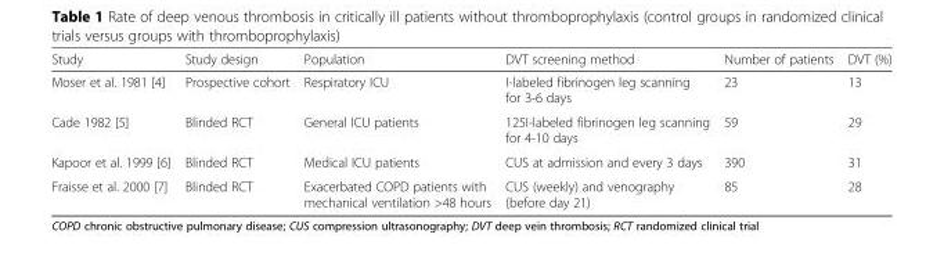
<table><thead><tr><td>Study</td><td>Study design</td><td>Population</td><td>DVT screening method</td><td>Number of patients</td><td>DVT (%)</td></tr></thead><tbody><tr><td>Moser et al. 1981 [4]</td><td>Prospective cohort</td><td>Respiratory ICU</td><td>I-labeled fibrinogen leg scanning for 3-6 days</td><td>23</td><td>13</td></tr><tr><td>Cade 1982 [5]</td><td>Blinded RCT</td><td>General ICU patients</td><td>125I-labeled fibrinogen leg scanning for 4-10 days</td><td>59</td><td>29</td></tr><tr><td>Kapoor et al. 1999 [6]</td><td>Blinded RCT</td><td>Medical ICU patients</td><td>CUS at admission and every 3 days</td><td>390</td><td>31</td></tr><tr><td>Fraisse et al. 2000 [7]</td><td>Blinded RCT</td><td>Exacerbated COPD patients with mechanical ventilation &gt;48 hours</td><td>CUS (weekly) and venography (before day 21)</td><td>85</td><td>28</td></tr></tbody></table>